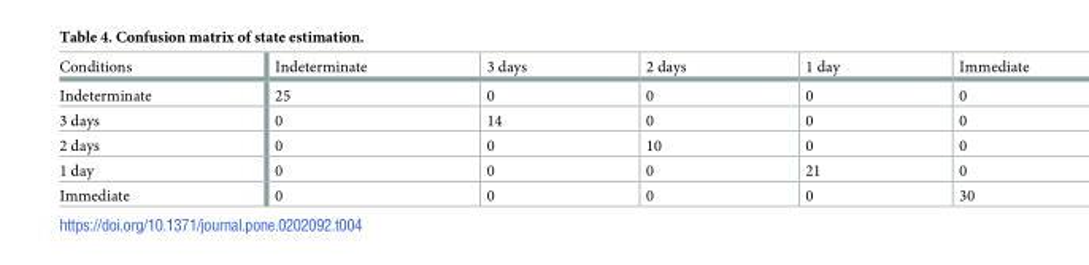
<table><tbody><tr><td>Conditions</td><td>Indeterminate</td><td>3 days</td><td>2 days</td><td>1 day</td><td>Immediate</td></tr><tr><td>Indeterminate</td><td>25</td><td>0</td><td>0</td><td>0</td><td>0</td></tr><tr><td>3 days</td><td>0</td><td>14</td><td>0</td><td>0</td><td>0</td></tr><tr><td>2 days</td><td>0</td><td>0</td><td>10</td><td>0</td><td>0</td></tr><tr><td>1 day</td><td>0</td><td>0</td><td>0</td><td>21</td><td>0</td></tr><tr><td>Immediate</td><td>0</td><td>0</td><td>0</td><td>0</td><td>30</td></tr></tbody></table>